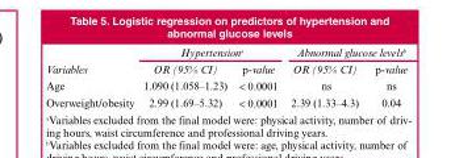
<table><thead><tr><td rowspan="2">Variables</td><td colspan="2">Hypertensiona</td><td colspan="2">Abnormal glucose levelsb</td></tr><tr><td>OR (95% CI)</td><td>p-value</td><td>OR (95% CI)</td><td>p-value</td></tr></thead><tbody><tr><td>Age</td><td>1.090 (1.058–1.23)</td><td>&lt; 0.0001</td><td>ns</td><td>ns</td></tr><tr><td>Overweight/obesity</td><td>2.99 (1.69–5.32)</td><td>&lt; 0.0001</td><td>2.39 (1.33–4.3)</td><td>0.04</td></tr></tbody></table>